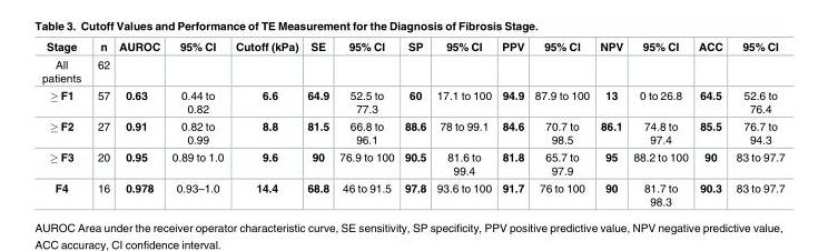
<table><thead><tr><td>Stage</td><td>n</td><td>AUROC</td><td>95% CI</td><td>Cutoff (kPa)</td><td>SE</td><td>95% CI</td><td>SP</td><td>95% CI</td><td>PPV</td><td>95% CI</td><td>NPV</td><td>95% CI</td><td>ACC</td><td>95% CI</td></tr></thead><tbody><tr><td>All patients</td><td>62</td><td></td><td></td><td></td><td></td><td></td><td></td><td></td><td></td><td></td><td></td><td></td><td></td><td></td></tr><tr><td>≥ F1</td><td>57</td><td>0.63</td><td>0.44 to 0.82</td><td>6.6</td><td>64.9</td><td>52.5 to 77.3</td><td>60</td><td>17.1 to 100</td><td>94.9</td><td>87.9 to 100</td><td>13</td><td>0 to 26.8</td><td>64.5</td><td>52.6 to 76.4</td></tr><tr><td>≥ F2</td><td>27</td><td>0.91</td><td>0.82 to 0.99</td><td>8.8</td><td>81.5</td><td>66.8 to 96.1</td><td>88.6</td><td>78 to 99.1</td><td>84.6</td><td>70.7 to 98.5</td><td>86.1</td><td>74.8 to 97.4</td><td>85.5</td><td>76.7 to 94.3</td></tr><tr><td>≥ F3</td><td>20</td><td>0.95</td><td>0.89 to 1.0</td><td>9.6</td><td>90</td><td>76.9 to 100</td><td>90.5</td><td>81.6 to 99.4</td><td>81.8</td><td>65.7 to 97.9</td><td>95</td><td>88.2 to 100</td><td>90</td><td>83 to 97.7</td></tr><tr><td>F4</td><td>16</td><td>0.978</td><td>0.93–1.0</td><td>14.4</td><td>68.8</td><td>46 to 91.5</td><td>97.8</td><td>93.6 to 100</td><td>91.7</td><td>76 to 100</td><td>90</td><td>81.7 to 98.3</td><td>90.3</td><td>83 to 97.7</td></tr></tbody></table>